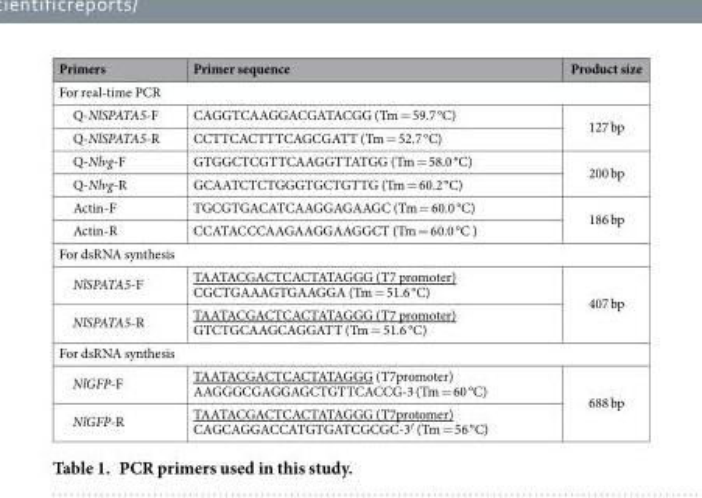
<table><thead><tr><td>Primers</td><td>Primer sequence</td><td>Product size</td></tr></thead><tbody><tr><td colspan="3">For real-time PCR</td></tr><tr><td>Q-NlSPATA5-F</td><td>CAGGTCAAGGACGATACGG (Tm = 59.7 °C)</td><td rowspan="2">127 bp</td></tr><tr><td>Q-NlSPATA5-R</td><td>CCTTCACTTTCAGCGATT (Tm = 52.7 °C)</td></tr><tr><td>Q-Nlvg-F</td><td>GTGGCTCGTTCAAGGTTATGG (Tm = 58.0 °C)</td><td rowspan="2">200 bp</td></tr><tr><td>Q-Nlvg-R</td><td>GCAATCTCTGGGTGCTGTTG (Tm = 60.2 °C)</td></tr><tr><td>Actin-F</td><td>TGCGTGACATCAAGGAGAAGC (Tm = 60.0 °C)</td><td rowspan="2">186 bp</td></tr><tr><td>Actin-R</td><td>CCATACCCAAGAAGGAAGGCT (Tm = 60.0 °C )</td></tr><tr><td colspan="3">For dsRNA synthesis</td></tr><tr><td>NlSPATA5-F</td><td>TAATACGACTCACTATAGGG (T7 promoter) CGCTGAAAGTGAAGGA (Tm = 51.6 °C)</td><td rowspan="2">407 bp</td></tr><tr><td>NlSPATA5-R</td><td>TAATACGACTCACTATAGGG (T7 promoter) GTCTGCAAGCAGGATT (Tm = 51.6 °C)</td></tr><tr><td colspan="3">For dsRNA synthesis</td></tr><tr><td>NlGFP-F</td><td>TAATACGACTCACTATAGGG (T7promoter) AAGGGCGAGGAGCTGTTCACCG-3 (Tm = 60 °C)</td><td rowspan="2">688 bp</td></tr><tr><td>NlGFP-R</td><td>TAATACGACTCACTATAGGG (T7protomer) CAGCAGGACCATGTGATCGCGC-3′ (Tm = 56 °C)</td></tr></tbody></table>